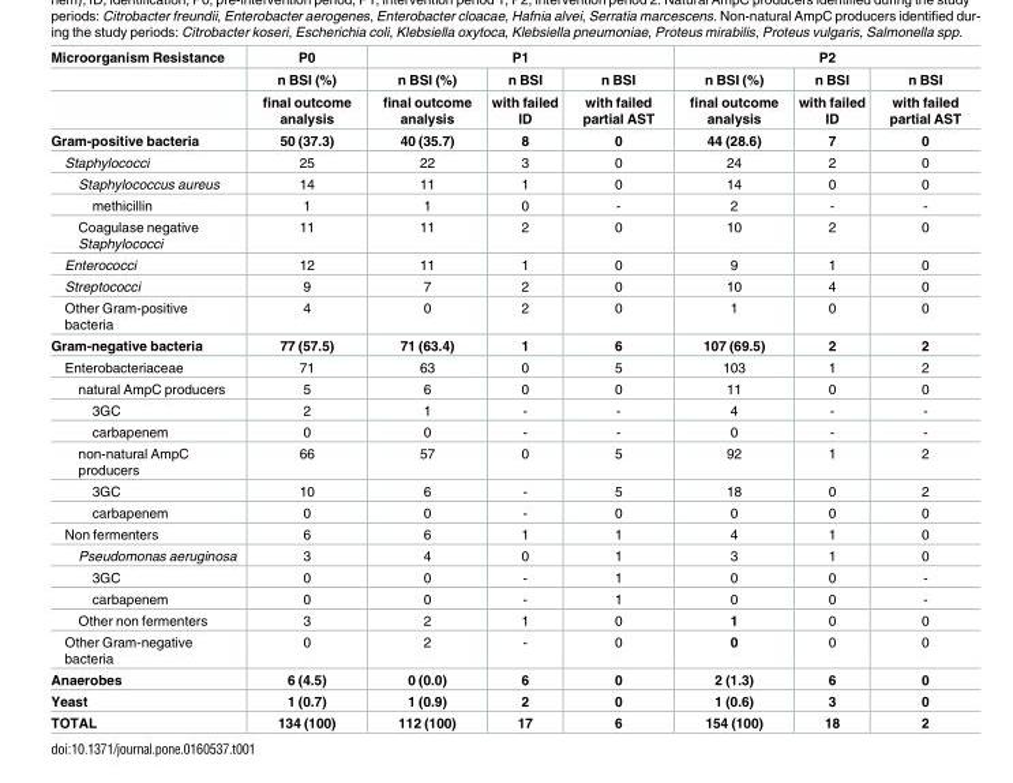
<table><thead><tr><td rowspan="3">Microorganism Resistance</td><td rowspan="3">P0 n BSI (%) final outcome analysis</td><td colspan="3">P1</td><td colspan="3">P2</td></tr><tr><td rowspan="2">n BSI (%) final outcome analysis</td><td rowspan="2">n BSI with failed ID</td><td rowspan="2">n BSI with failed partial AST</td><td rowspan="2">n BSI (%) final outcome analysis</td><td rowspan="2">n BSI with failed ID</td><td rowspan="2">n BSI with failed partial AST</td></tr><tr></tr></thead><tbody><tr><td>Gram-positive bacteria</td><td>50 (37.3)</td><td>40 (35.7)</td><td>8</td><td>0</td><td>44 (28.6)</td><td>7</td><td>0</td></tr><tr><td>Staphylococci</td><td>25</td><td>22</td><td>3</td><td>0</td><td>24</td><td>2</td><td>0</td></tr><tr><td>Staphylococcus aureus</td><td>14</td><td>11</td><td>1</td><td>0</td><td>14</td><td>0</td><td>0</td></tr><tr><td>methicillin</td><td>1</td><td>1</td><td>0</td><td>-</td><td>2</td><td>-</td><td>-</td></tr><tr><td>Coagulase negative Staphylococci</td><td>11</td><td>11</td><td>2</td><td>0</td><td>10</td><td>2</td><td>0</td></tr><tr><td>Enterococci</td><td>12</td><td>11</td><td>1</td><td>0</td><td>9</td><td>1</td><td>0</td></tr><tr><td>Streptococci</td><td>9</td><td>7</td><td>2</td><td>0</td><td>10</td><td>4</td><td>0</td></tr><tr><td>Other Gram-positive bacteria</td><td>4</td><td>0</td><td>2</td><td>0</td><td>1</td><td>0</td><td>0</td></tr><tr><td>Gram-negative bacteria</td><td>77 (57.5)</td><td>71 (63.4)</td><td>1</td><td>6</td><td>107 (69.5)</td><td>2</td><td>2</td></tr><tr><td>Enterobacteriaceae</td><td>71</td><td>63</td><td>0</td><td>5</td><td>103</td><td>1</td><td>2</td></tr><tr><td>natural AmpC producers</td><td>5</td><td>6</td><td>0</td><td>0</td><td>11</td><td>0</td><td>0</td></tr><tr><td>3GC</td><td>2</td><td>1</td><td>-</td><td>-</td><td>4</td><td>-</td><td>-</td></tr><tr><td>carbapenem</td><td>0</td><td>0</td><td>-</td><td>-</td><td>0</td><td>-</td><td>-</td></tr><tr><td>non-natural AmpC producers</td><td>66</td><td>57</td><td>0</td><td>5</td><td>92</td><td>1</td><td>2</td></tr><tr><td>3GC</td><td>10</td><td>6</td><td>-</td><td>5</td><td>18</td><td>0</td><td>2</td></tr><tr><td>carbapenem</td><td>0</td><td>0</td><td>-</td><td>0</td><td>0</td><td>0</td><td>0</td></tr><tr><td>Non fermenters</td><td>6</td><td>6</td><td>1</td><td>1</td><td>4</td><td>1</td><td>0</td></tr><tr><td>Pseudomonas aeruginosa</td><td>3</td><td>4</td><td>0</td><td>1</td><td>3</td><td>1</td><td>0</td></tr><tr><td>3GC</td><td>0</td><td>0</td><td>-</td><td>1</td><td>0</td><td>0</td><td>-</td></tr><tr><td>carbapenem</td><td>0</td><td>0</td><td>-</td><td>1</td><td>0</td><td>0</td><td>-</td></tr><tr><td>Other non fermenters</td><td>3</td><td>2</td><td>1</td><td>0</td><td>1</td><td>0</td><td>0</td></tr><tr><td>Other Gram-negative bacteria</td><td>0</td><td>2</td><td>-</td><td>0</td><td>0</td><td>0</td><td>0</td></tr><tr><td>Anaerobes</td><td>6 (4.5)</td><td>0 (0.0)</td><td>6</td><td>0</td><td>2 (1.3)</td><td>6</td><td>0</td></tr><tr><td>Yeast</td><td>1 (0.7)</td><td>1 (0.9)</td><td>2</td><td>0</td><td>1 (0.6)</td><td>3</td><td>0</td></tr><tr><td>TOTAL</td><td>134 (100)</td><td>112 (100)</td><td>17</td><td>6</td><td>154 (100)</td><td>18</td><td>2</td></tr></tbody></table>